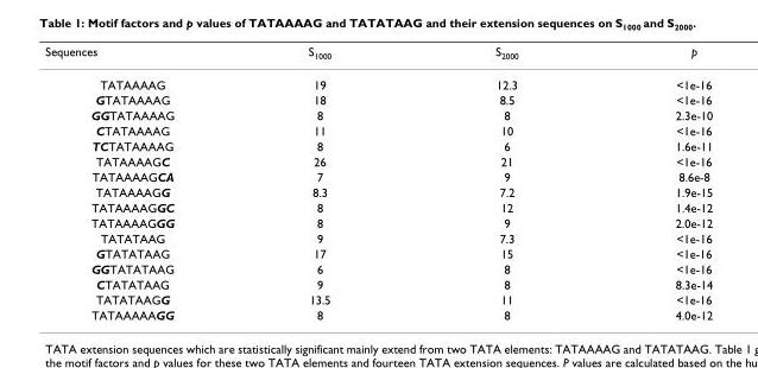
<table><thead><tr><td>Sequences</td><td>S1000</td><td>S2000</td><td>p</td></tr></thead><tbody><tr><td>TATAAAAG</td><td>19</td><td>12.3</td><td>&lt;1e-16</td></tr><tr><td>GTATAAAAG</td><td>18</td><td>8.5</td><td>&lt;1e-16</td></tr><tr><td>GGTATAAAAG</td><td>8</td><td>8</td><td>2.3e-10</td></tr><tr><td>CTATAAAAG</td><td>11</td><td>10</td><td>&lt;1e-16</td></tr><tr><td>TCTATAAAAG</td><td>8</td><td>6</td><td>1.6e-11</td></tr><tr><td>TATAAAAGC</td><td>26</td><td>21</td><td>&lt;1e-16</td></tr><tr><td>TATAAAAGCA</td><td>7</td><td>9</td><td>8.6e-8</td></tr><tr><td>TATAAAAGG</td><td>8.3</td><td>7.2</td><td>1.9e-15</td></tr><tr><td>TATAAAAGGC</td><td>8</td><td>12</td><td>1.4e-12</td></tr><tr><td>TATAAAAGGG</td><td>8</td><td>9</td><td>2.0e-12</td></tr><tr><td>TATATAAG</td><td>9</td><td>7.3</td><td>&lt;1e-16</td></tr><tr><td>GTATATAAG</td><td>17</td><td>15</td><td>&lt;1e-16</td></tr><tr><td>GGTATATAAG</td><td>6</td><td>8</td><td>&lt;1e-16</td></tr><tr><td>CTATATAAG</td><td>9</td><td>8</td><td>8.3e-14</td></tr><tr><td>TATATAAGG</td><td>13.5</td><td>11</td><td>&lt;1e-16</td></tr><tr><td>TATAAAAAGG</td><td>8</td><td>8</td><td>4.0e-12</td></tr></tbody></table>